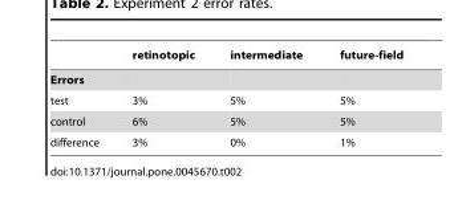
<table><thead><tr><td></td><td>retinotopic</td><td>intermediate</td><td>future-field</td></tr></thead><tbody><tr><td colspan="4">Errors</td></tr><tr><td>test</td><td>3%</td><td>5%</td><td>5%</td></tr><tr><td>control</td><td>6%</td><td>5%</td><td>5%</td></tr><tr><td>difference</td><td>3%</td><td>0%</td><td>1%</td></tr></tbody></table>